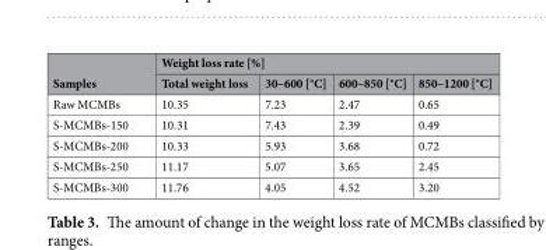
<table><thead><tr><td rowspan="2">Samples</td><td colspan="4">Weight loss rate [%]</td></tr><tr><td>Total weight loss</td><td>30–600 [°C]</td><td>600–850 [°C]</td><td>850–1200 [°C]</td></tr></thead><tbody><tr><td>Raw MCMBs</td><td>10.35</td><td>7.23</td><td>2.47</td><td>0.65</td></tr><tr><td>S-MCMBs-150</td><td>10.31</td><td>7.43</td><td>2.39</td><td>0.49</td></tr><tr><td>S-MCMBs-200</td><td>10.33</td><td>5.93</td><td>3.68</td><td>0.72</td></tr><tr><td>S-MCMBs-250</td><td>11.17</td><td>5.07</td><td>3.65</td><td>2.45</td></tr><tr><td>S-MCMBs-300</td><td>11.76</td><td>4.05</td><td>4.52</td><td>3.20</td></tr></tbody></table>